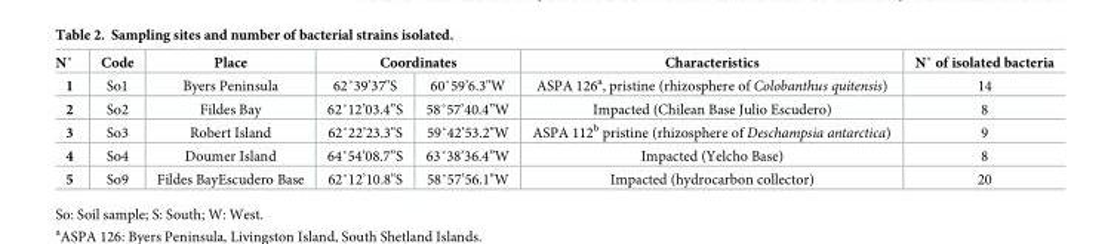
<table><thead><tr><td rowspan="2">N˚ 1</td><td rowspan="2">Code So1</td><td rowspan="2">Place Byers Peninsula</td><td colspan="2">Coordinates</td><td rowspan="2">Characteristics ASPA 126<sup>a</sup>, pristine (rhizosphere of Colobanthus quitensis)</td><td rowspan="2">N˚ of isolated bacteria 14</td></tr><tr><td>62˚39’37&quot;S</td><td>60˚59’6.3&quot;W</td></tr></thead><tbody><tr><td>2</td><td>So2</td><td>Fildes Bay</td><td>62˚12’03.4”S</td><td>58˚57’40.4”W</td><td>Impacted (Chilean Base Julio Escudero)</td><td>8</td></tr><tr><td>3</td><td>So3</td><td>Robert Island</td><td>62˚22’23.3&quot;S</td><td>59˚42’53.2&quot;W</td><td>ASPA 112<sup>b</sup> pristine (rhizosphere of Deschampsia antarctica)</td><td>9</td></tr><tr><td>4</td><td>So4</td><td>Doumer Island</td><td>64˚54’08.7”S</td><td>63˚38’36.4”W</td><td>Impacted (Yelcho Base)</td><td>8</td></tr><tr><td>5</td><td>So9</td><td>Fildes BayEscudero Base</td><td>62˚12’10.8&quot;S</td><td>58˚57’56.1&quot;W</td><td>Impacted (hydrocarbon collector)</td><td>20</td></tr></tbody></table>